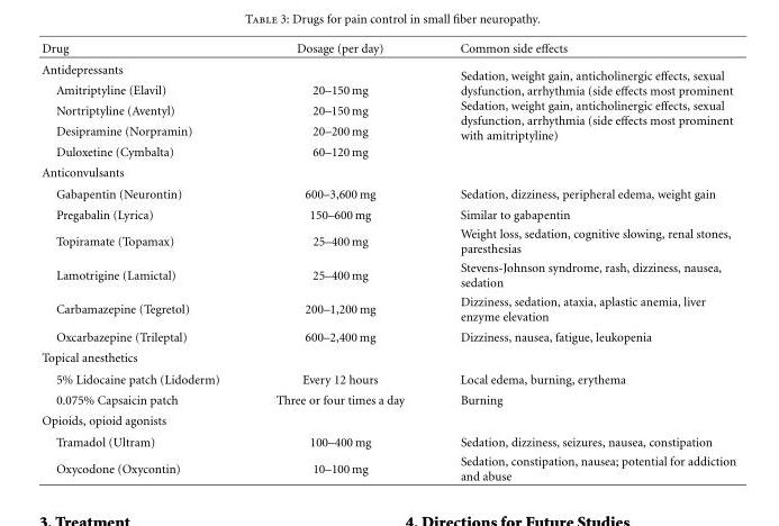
<table><thead><tr><td>Drug</td><td>Dosage (per day)</td><td>Common side effects</td></tr></thead><tbody><tr><td colspan="2">Antidepressants</td><td rowspan="5">Sedation, weight gain, anticholinergic effects, sexual dysfunction, arrhythmia (side effects most prominent Sedation, weight gain, anticholinergic effects, sexual dysfunction, arrhythmia (side effects most prominent with amitriptyline)</td></tr><tr><td>Amitriptyline (Elavil)</td><td>20–150 mg</td></tr><tr><td>Nortriptyline (Aventyl)</td><td>20–150 mg</td></tr><tr><td>Desipramine (Norpramin)</td><td>20–200 mg</td></tr><tr><td>Duloxetine (Cymbalta)</td><td>60–120 mg</td></tr><tr><td colspan="3">Anticonvulsants</td></tr><tr><td>Gabapentin (Neurontin)</td><td>600–3,600 mg</td><td>Sedation, dizziness, peripheral edema, weight gain</td></tr><tr><td>Pregabalin (Lyrica)</td><td>150–600 mg</td><td>Similar to gabapentin</td></tr><tr><td>Topiramate (Topamax)</td><td>25–400 mg</td><td>Weight loss, sedation, cognitive slowing, renal stones, paresthesias</td></tr><tr><td>Lamotrigine (Lamictal)</td><td>25–400 mg</td><td>Stevens-Johnson syndrome, rash, dizziness, nausea, sedation</td></tr><tr><td>Carbamazepine (Tegretol)</td><td>200–1,200 mg</td><td>Dizziness, sedation, ataxia, aplastic anemia, liver enzyme elevation</td></tr><tr><td>Oxcarbazepine (Trileptal)</td><td>600–2,400 mg</td><td>Dizziness, nausea, fatigue, leukopenia</td></tr><tr><td colspan="3">Topical anesthetics</td></tr><tr><td>5% Lidocaine patch (Lidoderm)</td><td>Every 12 hours</td><td>Local edema, burning, erythema</td></tr><tr><td>0.075% Capsaicin patch</td><td>Three or four times a day</td><td>Burning</td></tr><tr><td colspan="3">Opioids, opioid agonists</td></tr><tr><td>Tramadol (Ultram)</td><td>100–400 mg</td><td>Sedation, dizziness, seizures, nausea, constipation</td></tr><tr><td>Oxycodone (Oxycontin)</td><td>10–100 mg</td><td>Sedation, constipation, nausea; potential for addiction and abuse</td></tr></tbody></table>